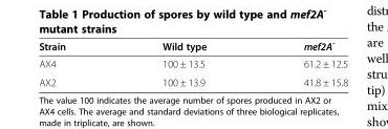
<table><thead><tr><td>Strain</td><td>Wild type</td><td>mef2A<sup>-</sup></td></tr></thead><tbody><tr><td>AX4</td><td>100 ± 13.5</td><td>61.2 ± 12.5</td></tr><tr><td>AX2</td><td>100 ± 13.9</td><td>41.8 ± 15.8</td></tr></tbody></table>